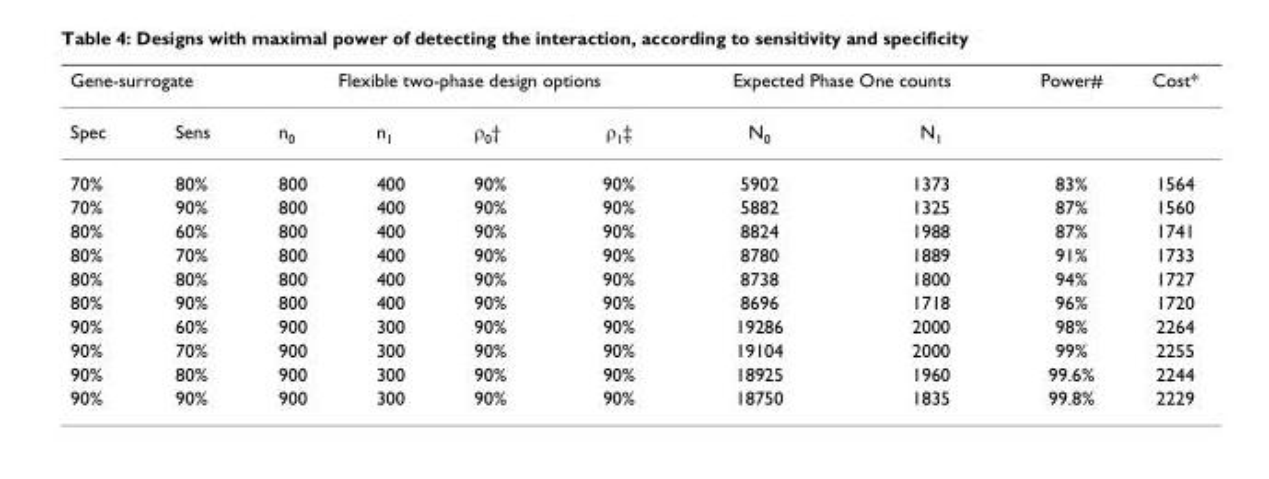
<table><thead><tr><td colspan="2">Gene-surrogate</td><td colspan="4">Flexible two-phase design options</td><td colspan="2">Expected Phase One counts</td><td rowspan="2">Power#</td><td rowspan="2">Cost*</td></tr><tr><td>Spec</td><td>Sens</td><td>n<sub>0</sub></td><td>n<sub>1</sub></td><td>ρ<sub>0</sub>†</td><td>ρ<sub>1</sub>‡</td><td>N<sub>0</sub></td><td>N<sub>1</sub></td></tr></thead><tbody><tr><td>70%</td><td>80%</td><td>800</td><td>400</td><td>90%</td><td>90%</td><td>5902</td><td>1373</td><td>83%</td><td>1564</td></tr><tr><td>70%</td><td>90%</td><td>800</td><td>400</td><td>90%</td><td>90%</td><td>5882</td><td>1325</td><td>87%</td><td>1560</td></tr><tr><td>80%</td><td>60%</td><td>800</td><td>400</td><td>90%</td><td>90%</td><td>8824</td><td>1988</td><td>87%</td><td>1741</td></tr><tr><td>80%</td><td>70%</td><td>800</td><td>400</td><td>90%</td><td>90%</td><td>8780</td><td>1889</td><td>91%</td><td>1733</td></tr><tr><td>80%</td><td>80%</td><td>800</td><td>400</td><td>90%</td><td>90%</td><td>8738</td><td>1800</td><td>94%</td><td>1727</td></tr><tr><td>80%</td><td>90%</td><td>800</td><td>400</td><td>90%</td><td>90%</td><td>8696</td><td>1718</td><td>96%</td><td>1720</td></tr><tr><td>90%</td><td>60%</td><td>900</td><td>300</td><td>90%</td><td>90%</td><td>19286</td><td>2000</td><td>98%</td><td>2264</td></tr><tr><td>90%</td><td>70%</td><td>900</td><td>300</td><td>90%</td><td>90%</td><td>19104</td><td>2000</td><td>99%</td><td>2255</td></tr><tr><td>90%</td><td>80%</td><td>900</td><td>300</td><td>90%</td><td>90%</td><td>18925</td><td>1960</td><td>99.6%</td><td>2244</td></tr><tr><td>90%</td><td>90%</td><td>900</td><td>300</td><td>90%</td><td>90%</td><td>18750</td><td>1835</td><td>99.8%</td><td>2229</td></tr></tbody></table>